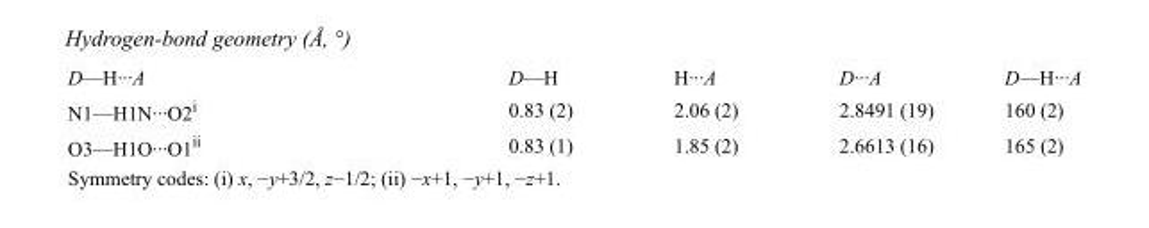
<table><tbody><tr><td>D—H···A</td><td>D—H</td><td>H···A</td><td>D···A</td><td>D—H···A</td></tr><tr><td>N1—H1N···O2<sup>i</sup></td><td>0.83 (2)</td><td>2.06 (2)</td><td>2.8491 (19)</td><td>160 (2)</td></tr><tr><td>O3—H1O···O1<sup>ii</sup></td><td>0.83 (1)</td><td>1.85 (2)</td><td>2.6613 (16)</td><td>165 (2)</td></tr></tbody></table>